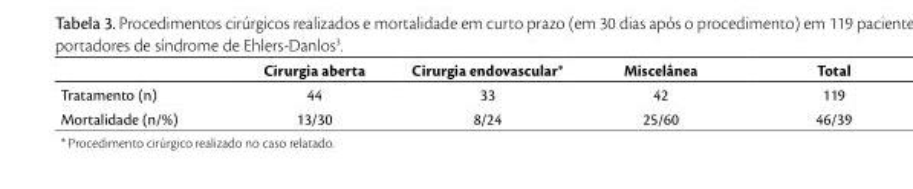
<table><thead><tr><td></td><td>Cirurgia aberta</td><td>Cirurgia endovascular*</td><td>Miscelânea</td><td>Total</td></tr></thead><tbody><tr><td>Tratamento (n)</td><td>44</td><td>33</td><td>42</td><td>119</td></tr><tr><td>Mortalidade (n/%)</td><td>13/30</td><td>8/24</td><td>25/60</td><td>46/39</td></tr></tbody></table>